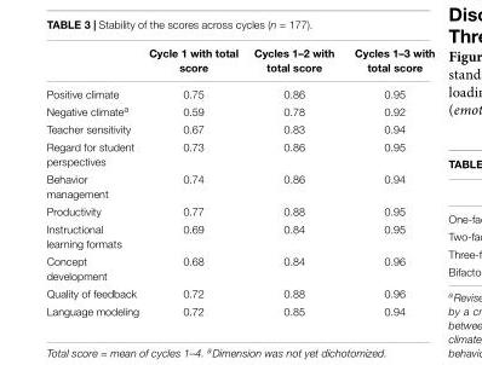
<table><thead><tr><td></td><td>Cycle 1 with total score</td><td>Cycles 1–2 with total score</td><td>Cycles 1–3 with total score</td></tr></thead><tbody><tr><td>Positive climate</td><td>0.75</td><td>0.86</td><td>0.95</td></tr><tr><td>Negative climate<sup>a</sup></td><td>0.59</td><td>0.78</td><td>0.92</td></tr><tr><td>Teacher sensitivity</td><td>0.67</td><td>0.83</td><td>0.94</td></tr><tr><td>Regard for student perspectives</td><td>0.73</td><td>0.86</td><td>0.95</td></tr><tr><td>Behavior management</td><td>0.74</td><td>0.86</td><td>0.94</td></tr><tr><td>Productivity</td><td>0.77</td><td>0.88</td><td>0.95</td></tr><tr><td>Instructional learning formats</td><td>0.69</td><td>0.84</td><td>0.95</td></tr><tr><td>Concept development</td><td>0.68</td><td>0.84</td><td>0.96</td></tr><tr><td>Quality of feedback</td><td>0.72</td><td>0.88</td><td>0.96</td></tr><tr><td>Language modeling</td><td>0.72</td><td>0.85</td><td>0.94</td></tr></tbody></table>